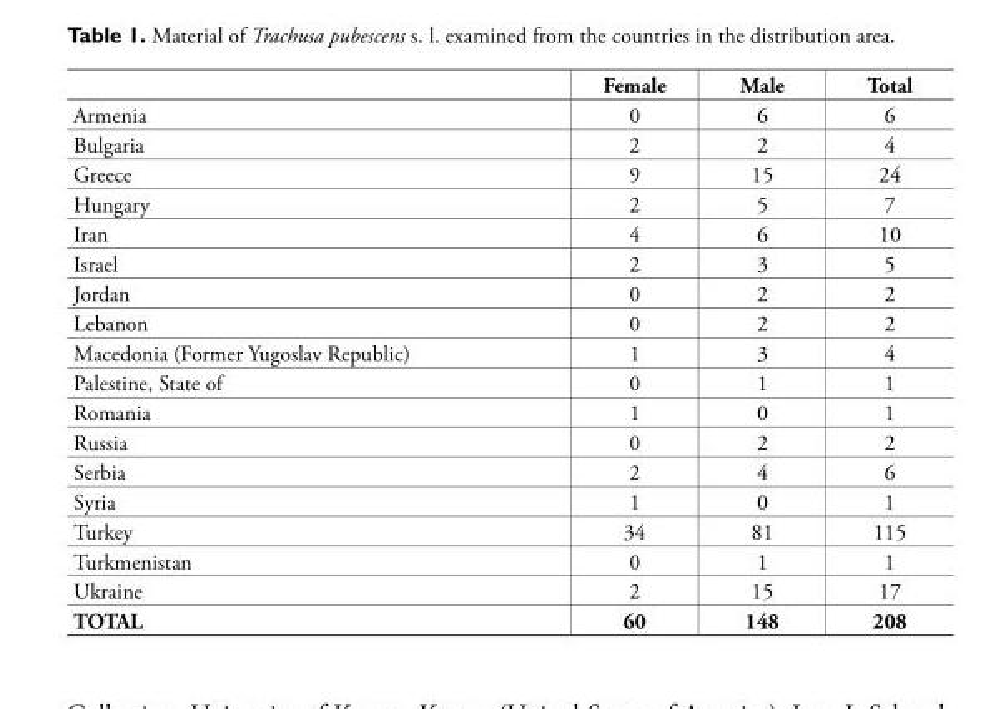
<table><thead><tr><td></td><td>Female</td><td>Male</td><td>Total</td></tr></thead><tbody><tr><td>Armenia</td><td>0</td><td>6</td><td>6</td></tr><tr><td>Bulgaria</td><td>2</td><td>2</td><td>4</td></tr><tr><td>Greece</td><td>9</td><td>15</td><td>24</td></tr><tr><td>Hungary</td><td>2</td><td>5</td><td>7</td></tr><tr><td>Iran</td><td>4</td><td>6</td><td>10</td></tr><tr><td>Israel</td><td>2</td><td>3</td><td>5</td></tr><tr><td>Jordan</td><td>0</td><td>2</td><td>2</td></tr><tr><td>Lebanon</td><td>0</td><td>2</td><td>2</td></tr><tr><td>Macedonia (Former Yugoslav Republic)</td><td>1</td><td>3</td><td>4</td></tr><tr><td>Palestine, State of</td><td>0</td><td>1</td><td>1</td></tr><tr><td>Romania</td><td>1</td><td>0</td><td>1</td></tr><tr><td>Russia</td><td>0</td><td>2</td><td>2</td></tr><tr><td>Serbia</td><td>2</td><td>4</td><td>6</td></tr><tr><td>Syria</td><td>1</td><td>0</td><td>1</td></tr><tr><td>Turkey</td><td>34</td><td>81</td><td>115</td></tr><tr><td>Turkmenistan</td><td>0</td><td>1</td><td>1</td></tr><tr><td>Ukraine</td><td>2</td><td>15</td><td>17</td></tr><tr><td>TOTAL</td><td>60</td><td>148</td><td>208</td></tr></tbody></table>